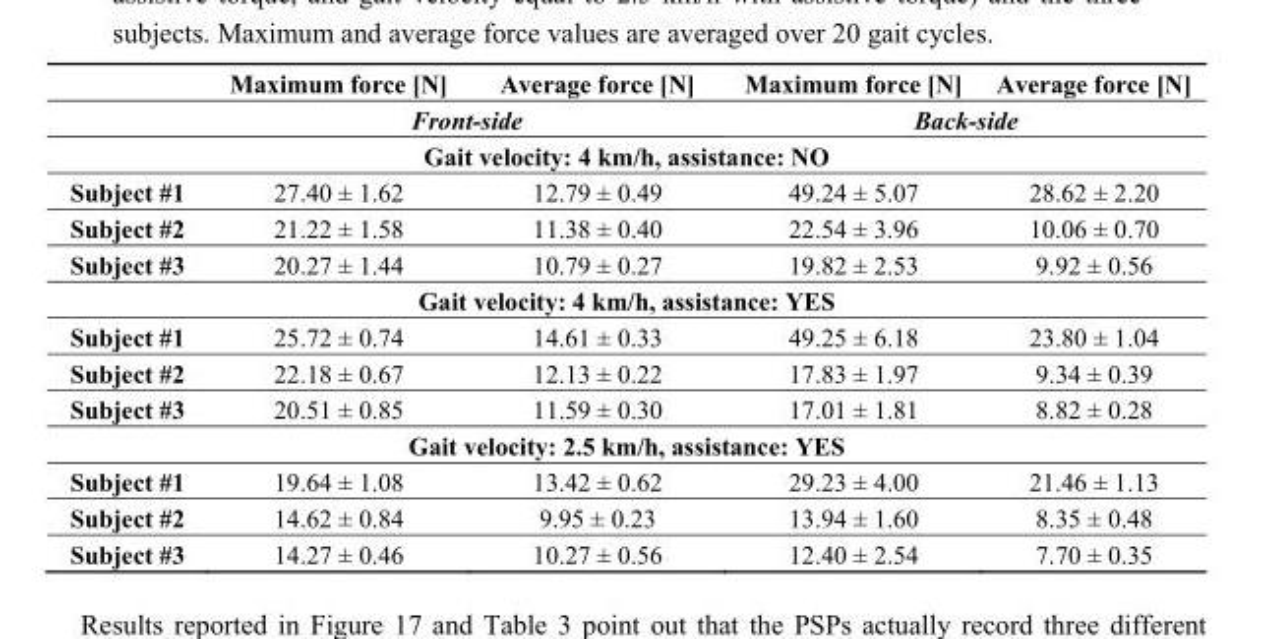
<table><thead><tr><td rowspan="2"></td><td>Maximum force [N]</td><td>Average force [N]</td><td>Maximum force [N]</td><td>Average force [N]</td></tr><tr><td colspan="2">Front-side</td><td colspan="2">Back-side</td></tr></thead><tbody><tr><td colspan="5">Gait velocity: 4 km/h, assistance: NO</td></tr><tr><td>Subject #1</td><td>27.40 ± 1.62</td><td>12.79 ± 0.49</td><td>49.24 ± 5.07</td><td>28.62 ± 2.20</td></tr><tr><td>Subject #2</td><td>21.22 ± 1.58</td><td>11.38 ± 0.40</td><td>22.54 ± 3.96</td><td>10.06 ± 0.70</td></tr><tr><td>Subject #3</td><td>20.27 ± 1.44</td><td>10.79 ± 0.27</td><td>19.82 ± 2.53</td><td>9.92 ± 0.56</td></tr><tr><td colspan="5">Gait velocity: 4 km/h, assistance: YES</td></tr><tr><td>Subject #1</td><td>25.72 ± 0.74</td><td>14.61 ± 0.33</td><td>49.25 ± 6.18</td><td>23.80 ± 1.04</td></tr><tr><td>Subject #2</td><td>22.18 ± 0.67</td><td>12.13 ± 0.22</td><td>17.83 ± 1.97</td><td>9.34 ± 0.39</td></tr><tr><td>Subject #3</td><td>20.51 ± 0.85</td><td>11.59 ± 0.30</td><td>17.01 ± 1.81</td><td>8.82 ± 0.28</td></tr><tr><td colspan="5">Gait velocity: 2.5 km/h, assistance: YES</td></tr><tr><td>Subject #1</td><td>19.64 ± 1.08</td><td>13.42 ± 0.62</td><td>29.23 ± 4.00</td><td>21.46 ± 1.13</td></tr><tr><td>Subject #2</td><td>14.62 ± 0.84</td><td>9.95 ± 0.23</td><td>13.94 ± 1.60</td><td>8.35 ± 0.48</td></tr><tr><td>Subject #3</td><td>14.27 ± 0.46</td><td>10.27 ± 0.56</td><td>12.40 ± 2.54</td><td>7.70 ± 0.35</td></tr></tbody></table>